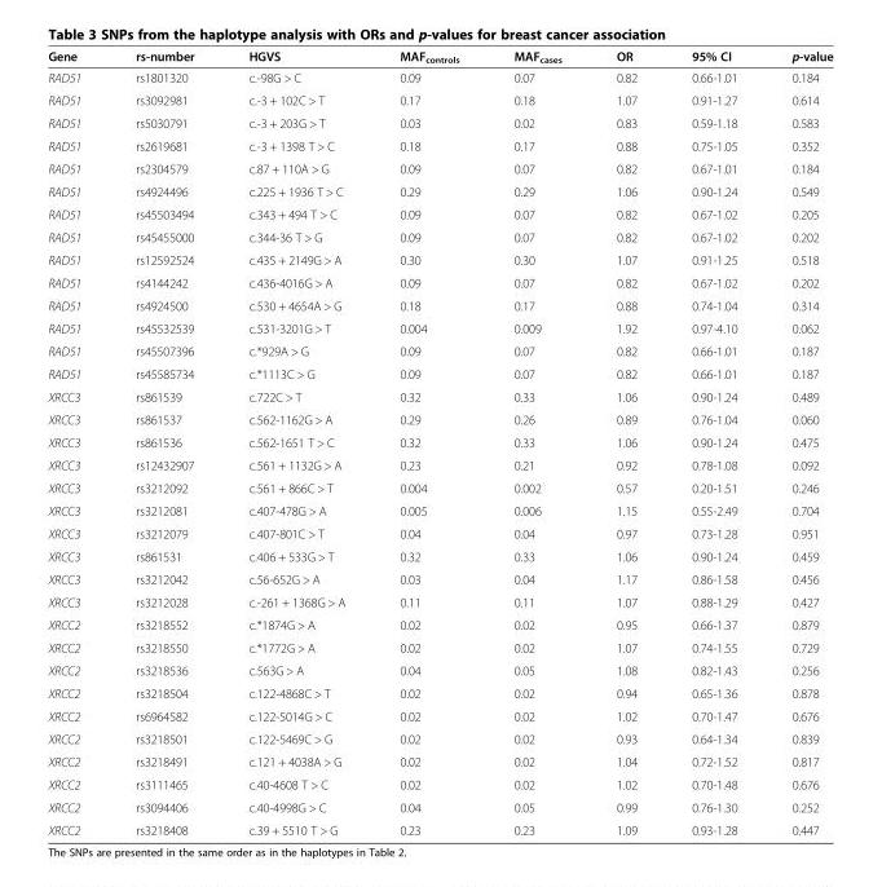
<table><thead><tr><td>Gene</td><td>rs-number</td><td>HGVS</td><td>MAF<sub>controls</sub></td><td>MAF<sub>cases</sub></td><td>OR</td><td>95% CI</td><td>p-value</td></tr></thead><tbody><tr><td>RAD51</td><td>rs1801320</td><td>c.-98G &gt; C</td><td>0.09</td><td>0.07</td><td>0.82</td><td>0.66-1.01</td><td>0.184</td></tr><tr><td>RAD51</td><td>rs3092981</td><td>c.-3 + 102C &gt; T</td><td>0.17</td><td>0.18</td><td>1.07</td><td>0.91-1.27</td><td>0.614</td></tr><tr><td>RAD51</td><td>rs5030791</td><td>c.-3 + 203G &gt; T</td><td>0.03</td><td>0.02</td><td>0.83</td><td>0.59-1.18</td><td>0.583</td></tr><tr><td>RAD51</td><td>rs2619681</td><td>c.-3 + 1398 T &gt; C</td><td>0.18</td><td>0.17</td><td>0.88</td><td>0.75-1.05</td><td>0.352</td></tr><tr><td>RAD51</td><td>rs2304579</td><td>c.87 + 110A &gt; G</td><td>0.09</td><td>0.07</td><td>0.82</td><td>0.67-1.01</td><td>0.184</td></tr><tr><td>RAD51</td><td>rs4924496</td><td>c.225 + 1936 T &gt; C</td><td>0.29</td><td>0.29</td><td>1.06</td><td>0.90-1.24</td><td>0.549</td></tr><tr><td>RAD51</td><td>rs45503494</td><td>c.343 + 494 T &gt; C</td><td>0.09</td><td>0.07</td><td>0.82</td><td>0.67-1.02</td><td>0.205</td></tr><tr><td>RAD51</td><td>rs45455000</td><td>c.344-36 T &gt; G</td><td>0.09</td><td>0.07</td><td>0.82</td><td>0.67-1.02</td><td>0.202</td></tr><tr><td>RAD51</td><td>rs12592524</td><td>c.435 + 2149G &gt; A</td><td>0.30</td><td>0.30</td><td>1.07</td><td>0.91-1.25</td><td>0.518</td></tr><tr><td>RAD51</td><td>rs4144242</td><td>c.436-4016G &gt; A</td><td>0.09</td><td>0.07</td><td>0.82</td><td>0.67-1.02</td><td>0.202</td></tr><tr><td>RAD51</td><td>rs4924500</td><td>c.530 + 4654A &gt; G</td><td>0.18</td><td>0.17</td><td>0.88</td><td>0.74-1.04</td><td>0.314</td></tr><tr><td>RAD51</td><td>rs45532539</td><td>c.531-3201G &gt; T</td><td>0.004</td><td>0.009</td><td>1.92</td><td>0.97-4.10</td><td>0.062</td></tr><tr><td>RAD51</td><td>rs45507396</td><td>c.*929A &gt; G</td><td>0.09</td><td>0.07</td><td>0.82</td><td>0.66-1.01</td><td>0.187</td></tr><tr><td>RAD51</td><td>rs45585734</td><td>c.*1113C &gt; G</td><td>0.09</td><td>0.07</td><td>0.82</td><td>0.66-1.01</td><td>0.187</td></tr><tr><td>XRCC3</td><td>rs861539</td><td>c.722C &gt; T</td><td>0.32</td><td>0.33</td><td>1.06</td><td>0.90-1.24</td><td>0.489</td></tr><tr><td>XRCC3</td><td>rs861537</td><td>c.562-1162G &gt; A</td><td>0.29</td><td>0.26</td><td>0.89</td><td>0.76-1.04</td><td>0.060</td></tr><tr><td>XRCC3</td><td>rs861536</td><td>c.562-1651 T &gt; C</td><td>0.32</td><td>0.33</td><td>1.06</td><td>0.90-1.24</td><td>0.475</td></tr><tr><td>XRCC3</td><td>rs12432907</td><td>c.561 + 1132G &gt; A</td><td>0.23</td><td>0.21</td><td>0.92</td><td>0.78-1.08</td><td>0.092</td></tr><tr><td>XRCC3</td><td>rs3212092</td><td>c.561 + 866C &gt; T</td><td>0.004</td><td>0.002</td><td>0.57</td><td>0.20-1.51</td><td>0.246</td></tr><tr><td>XRCC3</td><td>rs3212081</td><td>c.407-478G &gt; A</td><td>0.005</td><td>0.006</td><td>1.15</td><td>0.55-2.49</td><td>0.704</td></tr><tr><td>XRCC3</td><td>rs3212079</td><td>c.407-801C &gt; T</td><td>0.04</td><td>0.04</td><td>0.97</td><td>0.73-1.28</td><td>0.951</td></tr><tr><td>XRCC3</td><td>rs861531</td><td>c.406 + 533G &gt; T</td><td>0.32</td><td>0.33</td><td>1.06</td><td>0.90-1.24</td><td>0.459</td></tr><tr><td>XRCC3</td><td>rs3212042</td><td>c.56-652G &gt; A</td><td>0.03</td><td>0.04</td><td>1.17</td><td>0.86-1.58</td><td>0.456</td></tr><tr><td>XRCC3</td><td>rs3212028</td><td>c.-261 + 1368G &gt; A</td><td>0.11</td><td>0.11</td><td>1.07</td><td>0.88-1.29</td><td>0.427</td></tr><tr><td>XRCC2</td><td>rs3218552</td><td>c.*1874G &gt; A</td><td>0.02</td><td>0.02</td><td>0.95</td><td>0.66-1.37</td><td>0.879</td></tr><tr><td>XRCC2</td><td>rs3218550</td><td>c.*1772G &gt; A</td><td>0.02</td><td>0.02</td><td>1.07</td><td>0.74-1.55</td><td>0.729</td></tr><tr><td>XRCC2</td><td>rs3218536</td><td>c.563G &gt; A</td><td>0.04</td><td>0.05</td><td>1.08</td><td>0.82-1.43</td><td>0.256</td></tr><tr><td>XRCC2</td><td>rs3218504</td><td>c.122-4868C &gt; T</td><td>0.02</td><td>0.02</td><td>0.94</td><td>0.65-1.36</td><td>0.878</td></tr><tr><td>XRCC2</td><td>rs6964582</td><td>c.122-5014G &gt; C</td><td>0.02</td><td>0.02</td><td>1.02</td><td>0.70-1.47</td><td>0.676</td></tr><tr><td>XRCC2</td><td>rs3218501</td><td>c.122-5469C &gt; G</td><td>0.02</td><td>0.02</td><td>0.93</td><td>0.64-1.34</td><td>0.839</td></tr><tr><td>XRCC2</td><td>rs3218491</td><td>c.121 + 4038A &gt; G</td><td>0.02</td><td>0.02</td><td>1.04</td><td>0.72-1.52</td><td>0.817</td></tr><tr><td>XRCC2</td><td>rs3111465</td><td>c.40-4608 T &gt; C</td><td>0.02</td><td>0.02</td><td>1.02</td><td>0.70-1.48</td><td>0.676</td></tr><tr><td>XRCC2</td><td>rs3094406</td><td>c.40-4998G &gt; C</td><td>0.04</td><td>0.05</td><td>0.99</td><td>0.76-1.30</td><td>0.252</td></tr><tr><td>XRCC2</td><td>rs3218408</td><td>c.39 + 5510 T &gt; G</td><td>0.23</td><td>0.23</td><td>1.09</td><td>0.93-1.28</td><td>0.447</td></tr></tbody></table>